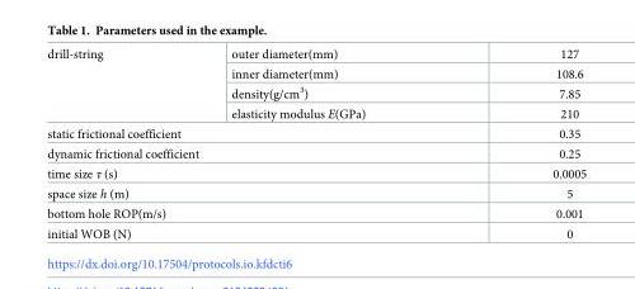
<table><tbody><tr><td rowspan="4">drill-string</td><td>outer diameter(mm)</td><td>127</td></tr><tr><td>inner diameter(mm)</td><td>108.6</td></tr><tr><td>density(g/cm3)</td><td>7.85</td></tr><tr><td>elasticity modulus E(GPa)</td><td>210</td></tr><tr><td colspan="2">static frictional coefficient</td><td>0.35</td></tr><tr><td colspan="2">dynamic frictional coefficient</td><td>0.25</td></tr><tr><td colspan="2">time size τ (s)</td><td>0.0005</td></tr><tr><td colspan="2">space size h (m)</td><td>5</td></tr><tr><td colspan="2">bottom hole ROP(m/s)</td><td>0.001</td></tr><tr><td colspan="2">initial WOB (N)</td><td>0</td></tr></tbody></table>